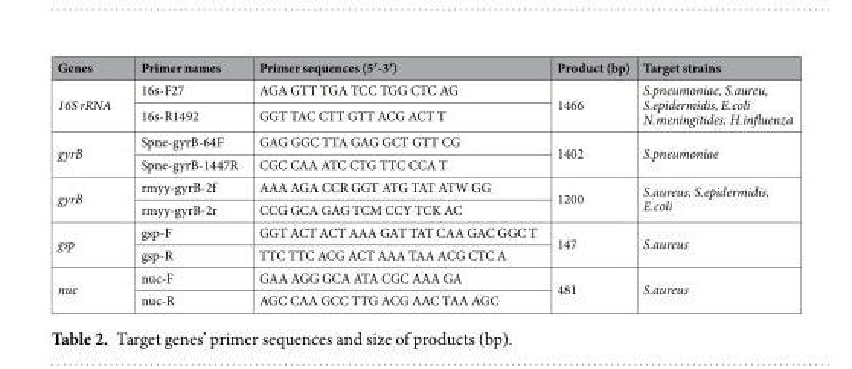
<table><thead><tr><td>Genes</td><td>Primer names</td><td>Primer sequences (5′-3′)</td><td>Product (bp)</td><td>Target strains</td></tr></thead><tbody><tr><td rowspan="2">16S rRNA</td><td>16s-F27</td><td>AGA GTT TGA TCC TGG CTC AG</td><td rowspan="2">1466</td><td rowspan="2">S.pneumoniae, S.aureu, S.epidermidis, E.coli N.meningitides, H.influenza</td></tr><tr><td>16s-R1492</td><td>GGT TAC CTT GTT ACG ACT T</td></tr><tr><td rowspan="2">gyrB</td><td>Spne-gyrB-64F</td><td>GAG GGC TTA GAG GCT GTT CG</td><td rowspan="2">1402</td><td rowspan="2">S.pneumoniae</td></tr><tr><td>Spne-gyrB-1447R</td><td>CGC CAA ATC CTG TTC CCA T</td></tr><tr><td rowspan="2">gyrB</td><td>rmyy-gyrB-2f</td><td>AAA AGA CCR GGT ATG TAT ATW GG</td><td rowspan="2">1200</td><td rowspan="2">S.aureus, S.epidermidis, E.coli</td></tr><tr><td>rmyy-gyrB-2r</td><td>CCG GCA GAG TCM CCY TCK AC</td></tr><tr><td rowspan="2">gsp</td><td>gsp-F</td><td>GGT ACT ACT AAA GAT TAT CAA GAC GGC T</td><td rowspan="2">147</td><td rowspan="2">S.aureus</td></tr><tr><td>gsp-R</td><td>TTC TTC ACG ACT AAA TAA ACG CTC A</td></tr><tr><td rowspan="2">nuc</td><td>nuc-F</td><td>GAA AGG GCA ATA CGC AAA GA</td><td rowspan="2">481</td><td rowspan="2">S.aureus</td></tr><tr><td>nuc-R</td><td>AGC CAA GCC TTG ACG AAC TAA AGC</td></tr></tbody></table>